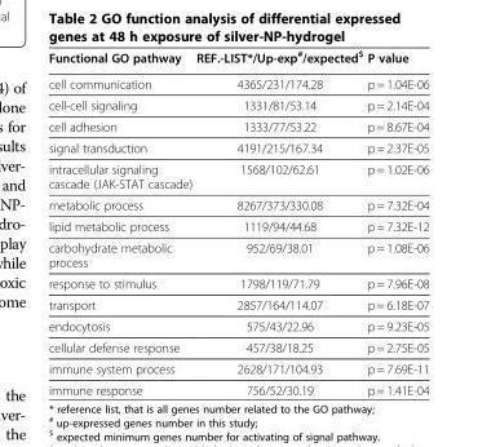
<table><thead><tr><td>Functional GO pathway</td><td>REF.-LIST*/Up-exp<sup>#</sup>/expected<sup>$</sup></td><td>P value</td></tr></thead><tbody><tr><td>cell communication</td><td>4365/231/174.28</td><td>p = 1.04E-06</td></tr><tr><td>cell-cell signaling</td><td>1331/81/53.14</td><td>p = 2.14E-04</td></tr><tr><td>cell adhesion</td><td>1333/77/53.22</td><td>p = 8.67E-04</td></tr><tr><td>signal transduction</td><td>4191/215/167.34</td><td>p = 2.37E-05</td></tr><tr><td>intracellular signaling cascade (JAK-STAT cascade)</td><td>1568/102/62.61</td><td>p = 1.02E-06</td></tr><tr><td>metabolic process</td><td>8267/373/330.08</td><td>p = 7.32E-04</td></tr><tr><td>lipid metabolic process</td><td>1119/94/44.68</td><td>p = 7.32E-12</td></tr><tr><td>carbohydrate metabolic process</td><td>952/69/38.01</td><td>p = 1.08E-06</td></tr><tr><td>response to stimulus</td><td>1798/119/71.79</td><td>p = 7.96E-08</td></tr><tr><td>transport</td><td>2857/164/114.07</td><td>p = 6.18E-07</td></tr><tr><td>endocytosis</td><td>575/43/22.96</td><td>p = 9.23E-05</td></tr><tr><td>cellular defense response</td><td>457/38/18.25</td><td>p = 2.75E-05</td></tr><tr><td>immune system process</td><td>2628/171/104.93</td><td>p = 7.69E-11</td></tr><tr><td>immune response</td><td>756/52/30.19</td><td>p = 1.41E-04</td></tr></tbody></table>